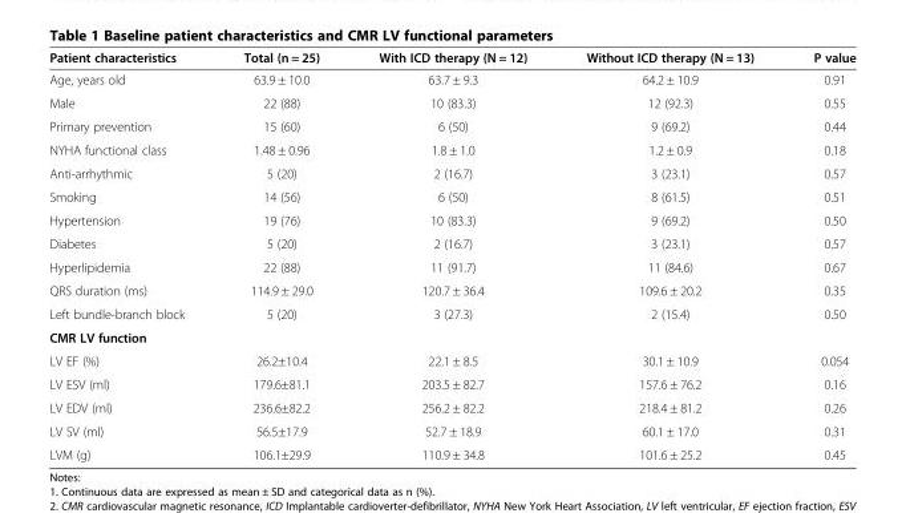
<table><thead><tr><td>Patient characteristics</td><td>Total (n = 25)</td><td>With ICD therapy (N = 12)</td><td>Without ICD therapy (N = 13)</td><td>P value</td></tr></thead><tbody><tr><td>Age, years old</td><td>63.9 ± 10.0</td><td>63.7 ± 9.3</td><td>64.2 ± 10.9</td><td>0.91</td></tr><tr><td>Male</td><td>22 (88)</td><td>10 (83.3)</td><td>12 (92.3)</td><td>0.55</td></tr><tr><td>Primary prevention</td><td>15 (60)</td><td>6 (50)</td><td>9 (69.2)</td><td>0.44</td></tr><tr><td>NYHA functional class</td><td>1.48 ± 0.96</td><td>1.8 ± 1.0</td><td>1.2 ± 0.9</td><td>0.18</td></tr><tr><td>Anti-arrhythmic</td><td>5 (20)</td><td>2 (16.7)</td><td>3 (23.1)</td><td>0.57</td></tr><tr><td>Smoking</td><td>14 (56)</td><td>6 (50)</td><td>8 (61.5)</td><td>0.51</td></tr><tr><td>Hypertension</td><td>19 (76)</td><td>10 (83.3)</td><td>9 (69.2)</td><td>0.50</td></tr><tr><td>Diabetes</td><td>5 (20)</td><td>2 (16.7)</td><td>3 (23.1)</td><td>0.57</td></tr><tr><td>Hyperlipidemia</td><td>22 (88)</td><td>11 (91.7)</td><td>11 (84.6)</td><td>0.67</td></tr><tr><td>QRS duration (ms)</td><td>114.9 ± 29.0</td><td>120.7 ± 36.4</td><td>109.6 ± 20.2</td><td>0.35</td></tr><tr><td>Left bundle-branch block</td><td>5 (20)</td><td>3 (27.3)</td><td>2 (15.4)</td><td>0.50</td></tr><tr><td colspan="5">CMR LV function</td></tr><tr><td>LV EF (%)</td><td>26.2±10.4</td><td>22.1 ± 8.5</td><td>30.1 ± 10.9</td><td>0.054</td></tr><tr><td>LV ESV (ml)</td><td>179.6±81.1</td><td>203.5 ± 82.7</td><td>157.6 ± 76.2</td><td>0.16</td></tr><tr><td>LV EDV (ml)</td><td>236.6±82.2</td><td>256.2 ± 82.2</td><td>218.4 ± 81.2</td><td>0.26</td></tr><tr><td>LV SV (ml)</td><td>56.5±17.9</td><td>52.7 ± 18.9</td><td>60.1 ± 17.0</td><td>0.31</td></tr><tr><td>LVM (g)</td><td>106.1±29.9</td><td>110.9 ± 34.8</td><td>101.6 ± 25.2</td><td>0.45</td></tr></tbody></table>